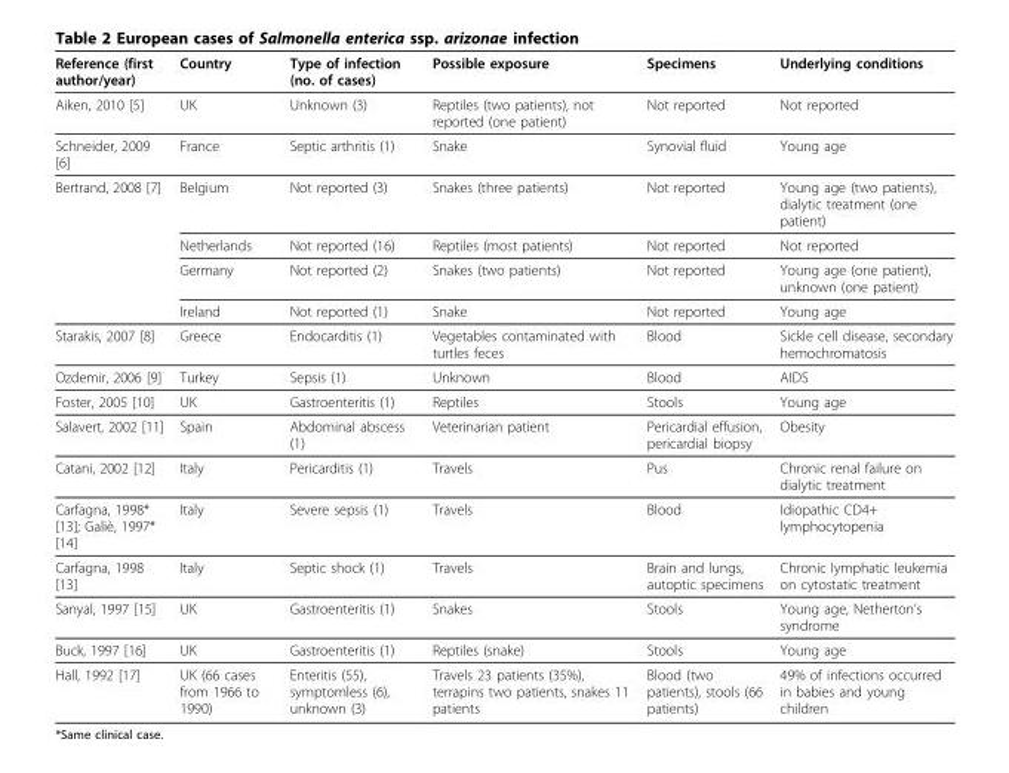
<table><thead><tr><td>Reference (first author/year)</td><td>Country</td><td>Type of infection (no. of cases)</td><td>Possible exposure</td><td>Specimens</td><td>Underlying conditions</td></tr></thead><tbody><tr><td>Aiken, 2010 [5]</td><td>UK</td><td>Unknown (3)</td><td>Reptiles (two patients), not reported (one patient)</td><td>Not reported</td><td>Not reported</td></tr><tr><td>Schneider, 2009 [6]</td><td>France</td><td>Septic arthritis (1)</td><td>Snake</td><td>Synovial fluid</td><td>Young age</td></tr><tr><td rowspan="4">Bertrand, 2008 [7]</td><td>Belgium</td><td>Not reported (3)</td><td>Snakes (three patients)</td><td>Not reported</td><td>Young age (two patients), dialytic treatment (one patient)</td></tr><tr><td>Netherlands</td><td>Not reported (16)</td><td>Reptiles (most patients)</td><td>Not reported</td><td>Not reported</td></tr><tr><td>Germany</td><td>Not reported (2)</td><td>Snakes (two patients)</td><td>Not reported</td><td>Young age (one patient), unknown (one patient)</td></tr><tr><td>Ireland</td><td>Not reported (1)</td><td>Snake</td><td>Not reported</td><td>Young age</td></tr><tr><td>Starakis, 2007 [8]</td><td>Greece</td><td>Endocarditis (1)</td><td>Vegetables contaminated with turtles feces</td><td>Blood</td><td>Sickle cell disease, secondary hemochromatosis</td></tr><tr><td>Ozdemir, 2006 [9]</td><td>Turkey</td><td>Sepsis (1)</td><td>Unknown</td><td>Blood</td><td>AIDS</td></tr><tr><td>Foster, 2005 [10]</td><td>UK</td><td>Gastroenteritis (1)</td><td>Reptiles</td><td>Stools</td><td>Young age</td></tr><tr><td>Salavert, 2002 [11]</td><td>Spain</td><td>Abdominal abscess (1)</td><td>Veterinarian patient</td><td>Pericardial effusion, pericardial biopsy</td><td>Obesity</td></tr><tr><td>Catani, 2002 [12]</td><td>Italy</td><td>Pericarditis (1)</td><td>Travels</td><td>Pus</td><td>Chronic renal failure on dialytic treatment</td></tr><tr><td>Carfagna, 1998* [13]; Galiè, 1997* [14]</td><td>Italy</td><td>Severe sepsis (1)</td><td>Travels</td><td>Blood</td><td>Idiopathic CD4+ lymphocytopenia</td></tr><tr><td>Carfagna, 1998 [13]</td><td>Italy</td><td>Septic shock (1)</td><td>Travels</td><td>Brain and lungs, autoptic specimens</td><td>Chronic lymphatic leukemia on cytostatic treatment</td></tr><tr><td>Sanyal, 1997 [15]</td><td>UK</td><td>Gastroenteritis (1)</td><td>Snakes</td><td>Stools</td><td>Young age, Netherton’s syndrome</td></tr><tr><td>Buck, 1997 [16]</td><td>UK</td><td>Gastroenteritis (1)</td><td>Reptiles (snake)</td><td>Stools</td><td>Young age</td></tr><tr><td>Hall, 1992 [17]</td><td>UK (66 cases from 1966 to 1990)</td><td>Enteritis (55), symptomless (6), unknown (3)</td><td>Travels 23 patients (35%), terrapins two patients, snakes 11 patients</td><td>Blood (two patients), stools (66 patients)</td><td>49% of infections occurred in babies and young children</td></tr></tbody></table>